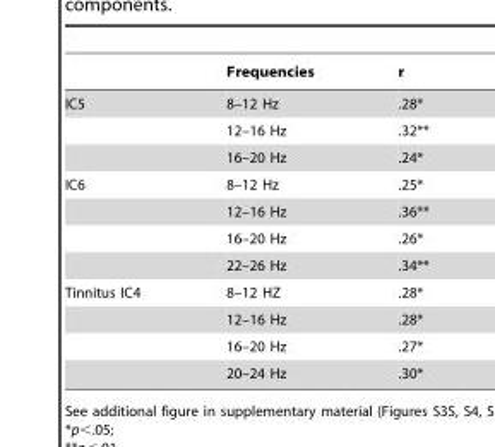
<table><thead><tr><td></td><td>Frequencies</td><td>r</td></tr></thead><tbody><tr><td rowspan="3">IC5</td><td>8–12 Hz</td><td>.28*</td></tr><tr><td>12–16 Hz</td><td>.32**</td></tr><tr><td>16–20 Hz</td><td>.24*</td></tr><tr><td rowspan="4">IC6</td><td>8–12 Hz</td><td>.25*</td></tr><tr><td>12–16 Hz</td><td>.36**</td></tr><tr><td>16–20 Hz</td><td>.26*</td></tr><tr><td>22–26 Hz</td><td>.34**</td></tr><tr><td rowspan="4">Tinnitus IC4</td><td>8–12 HZ</td><td>.28*</td></tr><tr><td>12–16 Hz</td><td>.28*</td></tr><tr><td>16–20 Hz</td><td>.27*</td></tr><tr><td>20–24 Hz</td><td>.30*</td></tr></tbody></table>